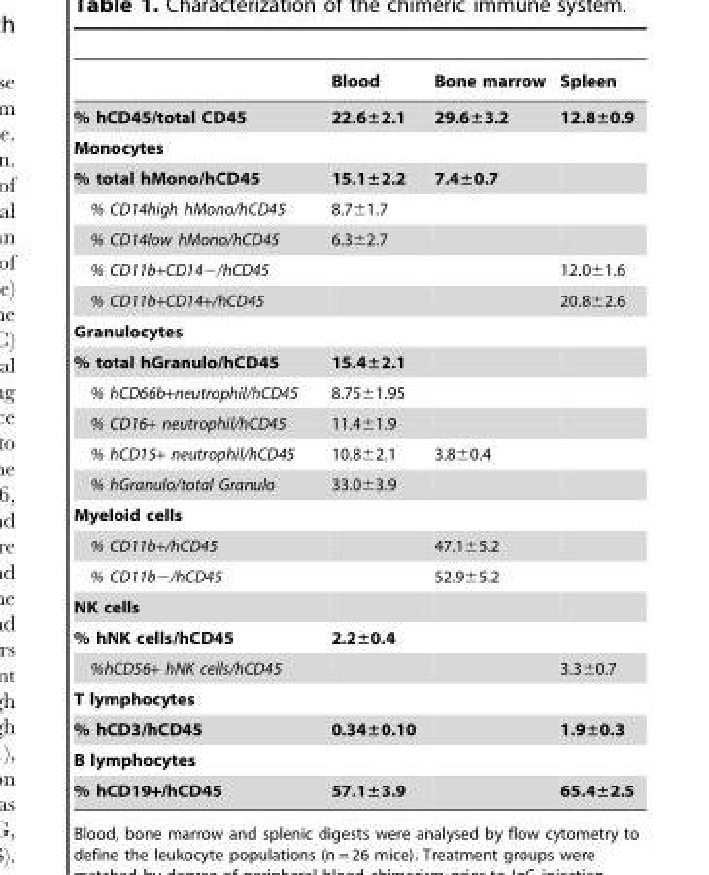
<table><thead><tr><td></td><td>Blood</td><td>Bone marrow</td><td>Spleen</td></tr></thead><tbody><tr><td>% hCD45/total CD45</td><td>22.6±2.1</td><td>29.6±3.2</td><td>12.8±0.9</td></tr><tr><td colspan="4">Monocytes</td></tr><tr><td>% total hMono/hCD45</td><td>15.1±2.2</td><td>7.4±0.7</td><td></td></tr><tr><td>% CD14high hMono/hCD45</td><td>8.7±1.7</td><td></td><td></td></tr><tr><td>% CD14low hMono/hCD45</td><td>6.3±2.7</td><td></td><td></td></tr><tr><td>% CD11b+CD14−/hCD45</td><td></td><td></td><td>12.0±1.6</td></tr><tr><td>% CD11b+CD14+/hCD45</td><td></td><td></td><td>20.8±2.6</td></tr><tr><td colspan="4">Granulocytes</td></tr><tr><td>% total hGranulo/hCD45</td><td>15.4±2.1</td><td></td><td></td></tr><tr><td>% hCD66b+neutrophil/hCD45</td><td>8.75±1.95</td><td></td><td></td></tr><tr><td>% CD16+ neutrophil/hCD45</td><td>11.4±1.9</td><td></td><td></td></tr><tr><td>% hCD15+ neutrophil/hCD45</td><td>10.8±2.1</td><td>3.8±0.4</td><td></td></tr><tr><td>% hGranulo/total Granulo</td><td>33.0±3.9</td><td></td><td></td></tr><tr><td colspan="4">Myeloid cells</td></tr><tr><td>% CD11b+/hCD45</td><td></td><td>47.1±5.2</td><td></td></tr><tr><td>% CD11b−/hCD45</td><td></td><td>52.9±5.2</td><td></td></tr><tr><td colspan="4">NK cells</td></tr><tr><td>% hNK cells/hCD45</td><td>2.2±0.4</td><td></td><td></td></tr><tr><td>%hCD56+ hNK cells/hCD45</td><td></td><td></td><td>3.3±0.7</td></tr><tr><td colspan="4">T lymphocytes</td></tr><tr><td>% hCD3/hCD45</td><td>0.34±0.10</td><td></td><td>1.9±0.3</td></tr><tr><td colspan="4">B lymphocytes</td></tr><tr><td>% hCD19+/hCD45</td><td>57.1±3.9</td><td></td><td>65.4±2.5</td></tr></tbody></table>